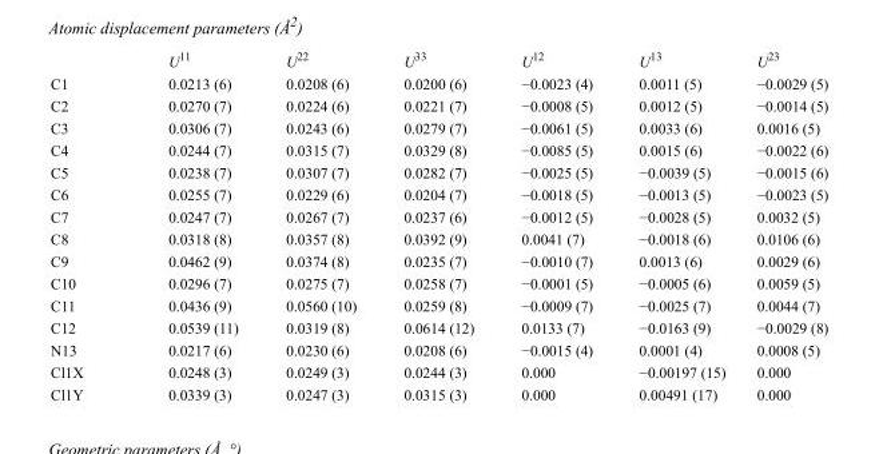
<table><thead><tr><td></td><td>U<sup>11</sup></td><td>U<sup>22</sup></td><td>U<sup>33</sup></td><td>U<sup>12</sup></td><td>U<sup>13</sup></td><td>U<sup>23</sup></td></tr></thead><tbody><tr><td>C1</td><td>0.0213 (6)</td><td>0.0208 (6)</td><td>0.0200 (6)</td><td>−0.0023 (4)</td><td>0.0011 (5)</td><td>−0.0029 (5)</td></tr><tr><td>C2</td><td>0.0270 (7)</td><td>0.0224 (6)</td><td>0.0221 (7)</td><td>−0.0008 (5)</td><td>0.0012 (5)</td><td>−0.0014 (5)</td></tr><tr><td>C3</td><td>0.0306 (7)</td><td>0.0243 (6)</td><td>0.0279 (7)</td><td>−0.0061 (5)</td><td>0.0033 (6)</td><td>0.0016 (5)</td></tr><tr><td>C4</td><td>0.0244 (7)</td><td>0.0315 (7)</td><td>0.0329 (8)</td><td>−0.0085 (5)</td><td>0.0015 (6)</td><td>−0.0022 (6)</td></tr><tr><td>C5</td><td>0.0238 (7)</td><td>0.0307 (7)</td><td>0.0282 (7)</td><td>−0.0025 (5)</td><td>−0.0039 (5)</td><td>−0.0015 (6)</td></tr><tr><td>C6</td><td>0.0255 (7)</td><td>0.0229 (6)</td><td>0.0204 (7)</td><td>−0.0018 (5)</td><td>−0.0013 (5)</td><td>−0.0023 (5)</td></tr><tr><td>C7</td><td>0.0247 (7)</td><td>0.0267 (7)</td><td>0.0237 (6)</td><td>−0.0012 (5)</td><td>−0.0028 (5)</td><td>0.0032 (5)</td></tr><tr><td>C8</td><td>0.0318 (8)</td><td>0.0357 (8)</td><td>0.0392 (9)</td><td>0.0041 (7)</td><td>−0.0018 (6)</td><td>0.0106 (6)</td></tr><tr><td>C9</td><td>0.0462 (9)</td><td>0.0374 (8)</td><td>0.0235 (7)</td><td>−0.0010 (7)</td><td>0.0013 (6)</td><td>0.0029 (6)</td></tr><tr><td>C10</td><td>0.0296 (7)</td><td>0.0275 (7)</td><td>0.0258 (7)</td><td>−0.0001 (5)</td><td>−0.0005 (6)</td><td>0.0059 (5)</td></tr><tr><td>C11</td><td>0.0436 (9)</td><td>0.0560 (10)</td><td>0.0259 (8)</td><td>−0.0009 (7)</td><td>−0.0025 (7)</td><td>0.0044 (7)</td></tr><tr><td>C12</td><td>0.0539 (11)</td><td>0.0319 (8)</td><td>0.0614 (12)</td><td>0.0133 (7)</td><td>−0.0163 (9)</td><td>−0.0029 (8)</td></tr><tr><td>N13</td><td>0.0217 (6)</td><td>0.0230 (6)</td><td>0.0208 (6)</td><td>−0.0015 (4)</td><td>0.0001 (4)</td><td>0.0008 (5)</td></tr><tr><td>Cl1X</td><td>0.0248 (3)</td><td>0.0249 (3)</td><td>0.0244 (3)</td><td>0.000</td><td>−0.00197 (15)</td><td>0.000</td></tr><tr><td>Cl1Y</td><td>0.0339 (3)</td><td>0.0247 (3)</td><td>0.0315 (3)</td><td>0.000</td><td>0.00491 (17)</td><td>0.000</td></tr></tbody></table>